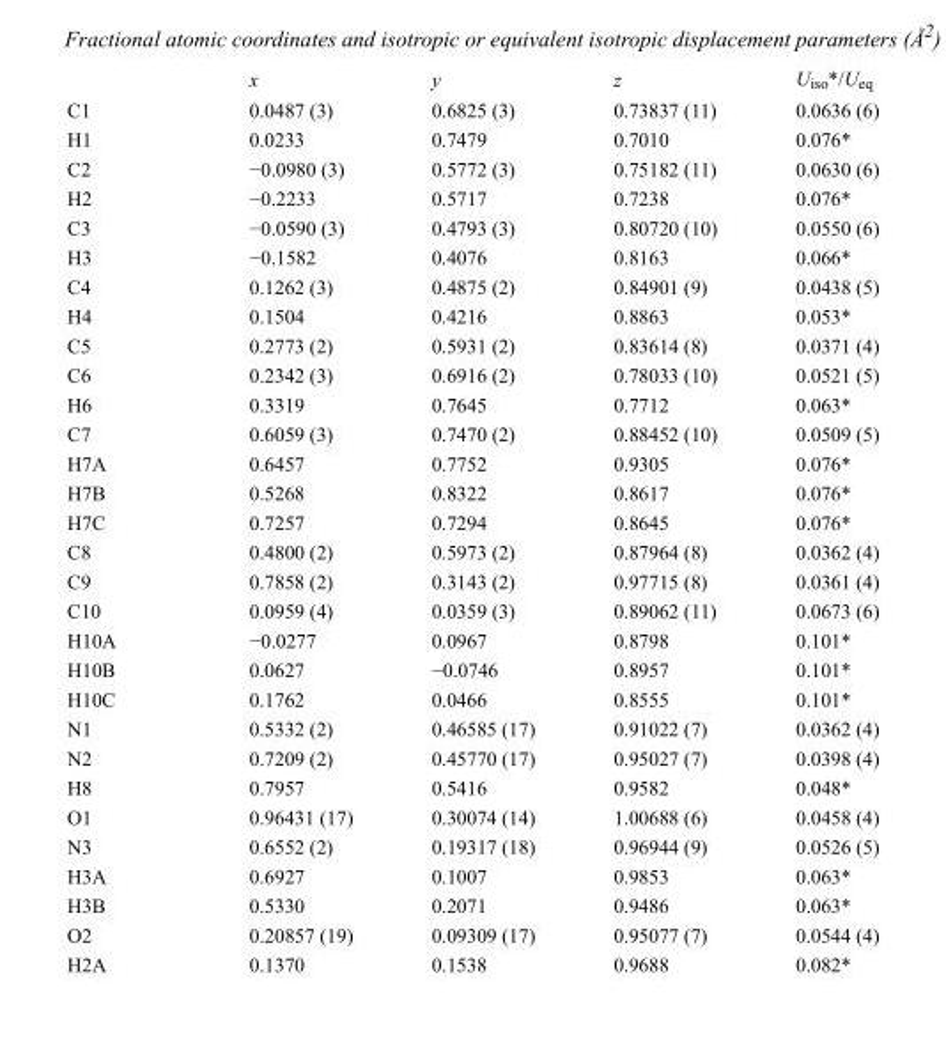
<table><thead><tr><td></td><td>x</td><td>y</td><td>z</td><td>U<sub>iso</sub>*/U<sub>eq</sub></td></tr></thead><tbody><tr><td>C1</td><td>0.0487 (3)</td><td>0.6825 (3)</td><td>0.73837 (11)</td><td>0.0636 (6)</td></tr><tr><td>H1</td><td>0.0233</td><td>0.7479</td><td>0.7010</td><td>0.076*</td></tr><tr><td>C2</td><td>−0.0980 (3)</td><td>0.5772 (3)</td><td>0.75182 (11)</td><td>0.0630 (6)</td></tr><tr><td>H2</td><td>−0.2233</td><td>0.5717</td><td>0.7238</td><td>0.076*</td></tr><tr><td>C3</td><td>−0.0590 (3)</td><td>0.4793 (3)</td><td>0.80720 (10)</td><td>0.0550 (6)</td></tr><tr><td>H3</td><td>−0.1582</td><td>0.4076</td><td>0.8163</td><td>0.066*</td></tr><tr><td>C4</td><td>0.1262 (3)</td><td>0.4875 (2)</td><td>0.84901 (9)</td><td>0.0438 (5)</td></tr><tr><td>H4</td><td>0.1504</td><td>0.4216</td><td>0.8863</td><td>0.053*</td></tr><tr><td>C5</td><td>0.2773 (2)</td><td>0.5931 (2)</td><td>0.83614 (8)</td><td>0.0371 (4)</td></tr><tr><td>C6</td><td>0.2342 (3)</td><td>0.6916 (2)</td><td>0.78033 (10)</td><td>0.0521 (5)</td></tr><tr><td>H6</td><td>0.3319</td><td>0.7645</td><td>0.7712</td><td>0.063*</td></tr><tr><td>C7</td><td>0.6059 (3)</td><td>0.7470 (2)</td><td>0.88452 (10)</td><td>0.0509 (5)</td></tr><tr><td>H7A</td><td>0.6457</td><td>0.7752</td><td>0.9305</td><td>0.076*</td></tr><tr><td>H7B</td><td>0.5268</td><td>0.8322</td><td>0.8617</td><td>0.076*</td></tr><tr><td>H7C</td><td>0.7257</td><td>0.7294</td><td>0.8645</td><td>0.076*</td></tr><tr><td>C8</td><td>0.4800 (2)</td><td>0.5973 (2)</td><td>0.87964 (8)</td><td>0.0362 (4)</td></tr><tr><td>C9</td><td>0.7858 (2)</td><td>0.3143 (2)</td><td>0.97715 (8)</td><td>0.0361 (4)</td></tr><tr><td>C10</td><td>0.0959 (4)</td><td>0.0359 (3)</td><td>0.89062 (11)</td><td>0.0673 (6)</td></tr><tr><td>H10A</td><td>−0.0277</td><td>0.0967</td><td>0.8798</td><td>0.101*</td></tr><tr><td>H10B</td><td>0.0627</td><td>−0.0746</td><td>0.8957</td><td>0.101*</td></tr><tr><td>H10C</td><td>0.1762</td><td>0.0466</td><td>0.8555</td><td>0.101*</td></tr><tr><td>N1</td><td>0.5332 (2)</td><td>0.46585 (17)</td><td>0.91022 (7)</td><td>0.0362 (4)</td></tr><tr><td>N2</td><td>0.7209 (2)</td><td>0.45770 (17)</td><td>0.95027 (7)</td><td>0.0398 (4)</td></tr><tr><td>H8</td><td>0.7957</td><td>0.5416</td><td>0.9582</td><td>0.048*</td></tr><tr><td>O1</td><td>0.96431 (17)</td><td>0.30074 (14)</td><td>1.00688 (6)</td><td>0.0458 (4)</td></tr><tr><td>N3</td><td>0.6552 (2)</td><td>0.19317 (18)</td><td>0.96944 (9)</td><td>0.0526 (5)</td></tr><tr><td>H3A</td><td>0.6927</td><td>0.1007</td><td>0.9853</td><td>0.063*</td></tr><tr><td>H3B</td><td>0.5330</td><td>0.2071</td><td>0.9486</td><td>0.063*</td></tr><tr><td>O2</td><td>0.20857 (19)</td><td>0.09309 (17)</td><td>0.95077 (7)</td><td>0.0544 (4)</td></tr><tr><td>H2A</td><td>0.1370</td><td>0.1538</td><td>0.9688</td><td>0.082*</td></tr></tbody></table>